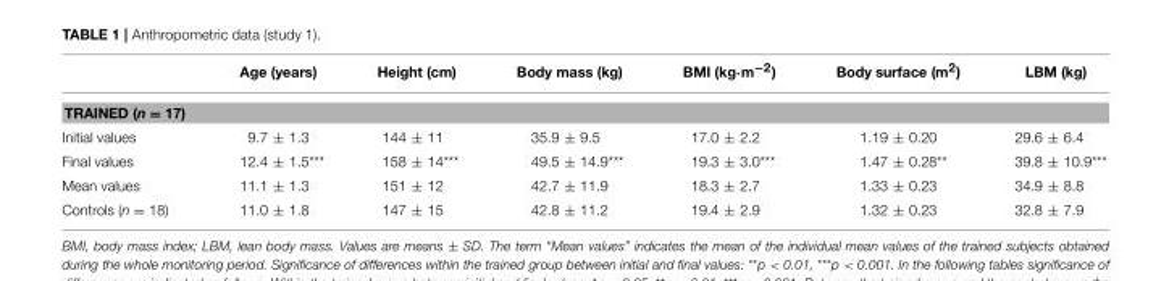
<table><thead><tr><td></td><td>Age (years)</td><td>Height (cm)</td><td>Body mass (kg)</td><td>BMI (kg·m<sup>−2</sup>)</td><td>Body surface (m<sup>2</sup>)</td><td>LBM (kg)</td></tr></thead><tbody><tr><td colspan="7">TRAINED (n = 17)</td></tr><tr><td>Initial values</td><td>9.7 ± 1.3</td><td>144 ± 11</td><td>35.9 ± 9.5</td><td>17.0 ± 2.2</td><td>1.19 ± 0.20</td><td>29.6 ± 6.4</td></tr><tr><td>Final values</td><td>12.4 ± 1.5***</td><td>158 ± 14***</td><td>49.5 ± 14.9***</td><td>19.3 ± 3.0***</td><td>1.47 ± 0.28**</td><td>39.8 ± 10.9***</td></tr><tr><td>Mean values</td><td>11.1 ± 1.3</td><td>151 ± 12</td><td>42.7 ± 11.9</td><td>18.3 ± 2.7</td><td>1.33 ± 0.23</td><td>34.9 ± 8.8</td></tr><tr><td>Controls (n = 18)</td><td>11.0 ± 1.8</td><td>147 ± 15</td><td>42.8 ± 11.2</td><td>19.4 ± 2.9</td><td>1.32 ± 0.23</td><td>32.8 ± 7.9</td></tr></tbody></table>